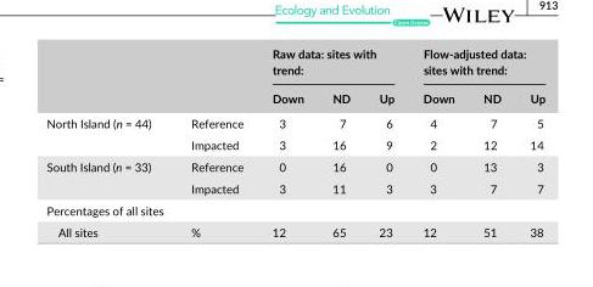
<table><thead><tr><td rowspan="2"></td><td rowspan="2"></td><td colspan="3">Raw data: sites with trend:</td><td colspan="3">Flow- adjusted data: sites with trend:</td></tr><tr><td>Down</td><td>ND</td><td>Up</td><td>Down</td><td>ND</td><td>Up</td></tr></thead><tbody><tr><td rowspan="2">North Island (n = 44)</td><td>Reference</td><td>3</td><td>7</td><td>6</td><td>4</td><td>7</td><td>5</td></tr><tr><td>Impacted</td><td>3</td><td>16</td><td>9</td><td>2</td><td>12</td><td>14</td></tr><tr><td rowspan="2">South Island (n = 33)</td><td>Reference</td><td>0</td><td>16</td><td>0</td><td>0</td><td>13</td><td>3</td></tr><tr><td>Impacted</td><td>3</td><td>11</td><td>3</td><td>3</td><td>7</td><td>7</td></tr><tr><td colspan="8">Percentages of all sites</td></tr><tr><td>All sites</td><td>%</td><td>12</td><td>65</td><td>23</td><td>12</td><td>51</td><td>38</td></tr></tbody></table>